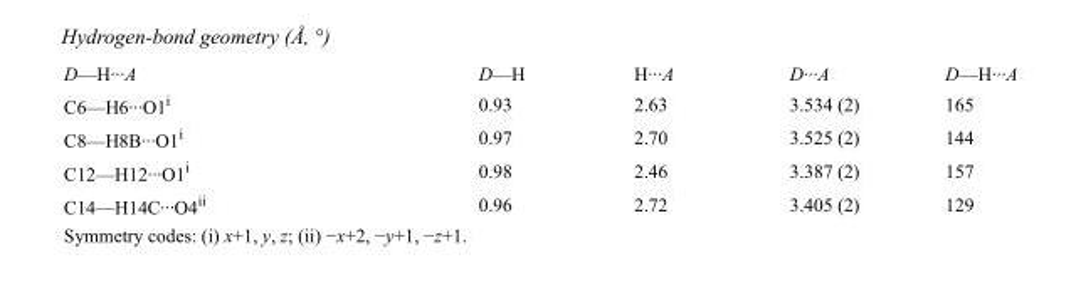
<table><tbody><tr><td>D—H···A</td><td>D—H</td><td>H···A</td><td>D···A</td><td>D—H···A</td></tr><tr><td>C6—H6···O1<sup>i</sup></td><td>0.93</td><td>2.63</td><td>3.534 (2)</td><td>165</td></tr><tr><td>C8—H8B···O1<sup>i</sup></td><td>0.97</td><td>2.70</td><td>3.525 (2)</td><td>144</td></tr><tr><td>C12—H12···O1<sup>i</sup></td><td>0.98</td><td>2.46</td><td>3.387 (2)</td><td>157</td></tr><tr><td>C14—H14C···O4<sup>ii</sup></td><td>0.96</td><td>2.72</td><td>3.405 (2)</td><td>129</td></tr></tbody></table>